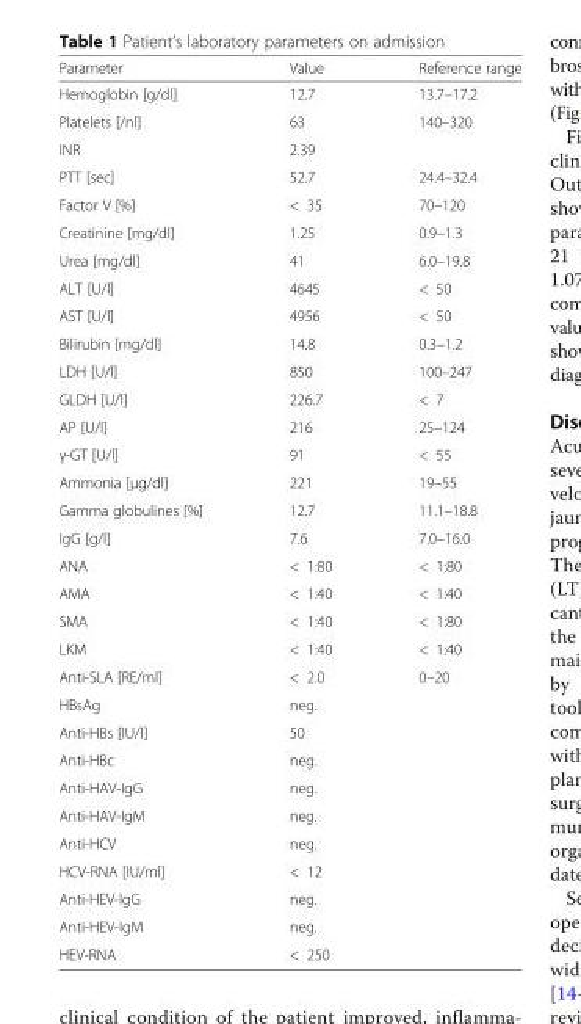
<table><thead><tr><td>Parameter</td><td>Value</td><td>Reference range</td></tr></thead><tbody><tr><td>Hemoglobin [g/dl]</td><td>12.7</td><td>13.7–17.2</td></tr><tr><td>Platelets [/nl]</td><td>63</td><td>140–320</td></tr><tr><td>INR</td><td>2.39</td><td></td></tr><tr><td>PTT [sec]</td><td>52.7</td><td>24.4–32.4</td></tr><tr><td>Factor V [%]</td><td>&lt; 35</td><td>70–120</td></tr><tr><td>Creatinine [mg/dl]</td><td>1.25</td><td>0.9–1.3</td></tr><tr><td>Urea [mg/dl]</td><td>41</td><td>6.0–19.8</td></tr><tr><td>ALT [U/l]</td><td>4645</td><td>&lt; 50</td></tr><tr><td>AST [U/l]</td><td>4956</td><td>&lt; 50</td></tr><tr><td>Bilirubin [mg/dl]</td><td>14.8</td><td>0.3–1.2</td></tr><tr><td>LDH [U/l]</td><td>850</td><td>100–247</td></tr><tr><td>GLDH [U/l]</td><td>226.7</td><td>&lt; 7</td></tr><tr><td>AP [U/l]</td><td>216</td><td>25–124</td></tr><tr><td>γ-GT [U/l]</td><td>91</td><td>&lt; 55</td></tr><tr><td>Ammonia [μg/dl]</td><td>221</td><td>19–55</td></tr><tr><td>Gamma globulines [%]</td><td>12.7</td><td>11.1–18.8</td></tr><tr><td>IgG [g/l]</td><td>7.6</td><td>7.0–16.0</td></tr><tr><td>ANA</td><td>&lt; 1:80</td><td>&lt; 1:80</td></tr><tr><td>AMA</td><td>&lt; 1:40</td><td>&lt; 1:40</td></tr><tr><td>SMA</td><td>&lt; 1:40</td><td>&lt; 1:80</td></tr><tr><td>LKM</td><td>&lt; 1:40</td><td>&lt; 1:40</td></tr><tr><td>Anti-SLA [RE/ml]</td><td>&lt; 2.0</td><td>0–20</td></tr><tr><td>HBsAg</td><td>neg.</td><td></td></tr><tr><td>Anti-HBs [IU/l]</td><td>50</td><td></td></tr><tr><td>Anti-HBc</td><td>neg.</td><td></td></tr><tr><td>Anti-HAV-IgG</td><td>neg.</td><td></td></tr><tr><td>Anti-HAV-IgM</td><td>neg.</td><td></td></tr><tr><td>Anti-HCV</td><td>neg.</td><td></td></tr><tr><td>HCV-RNA [IU/ml]</td><td>&lt; 12</td><td></td></tr><tr><td>Anti-HEV-IgG</td><td>neg.</td><td></td></tr><tr><td>Anti-HEV-IgM</td><td>neg.</td><td></td></tr><tr><td>HEV-RNA</td><td>&lt; 250</td><td></td></tr></tbody></table>